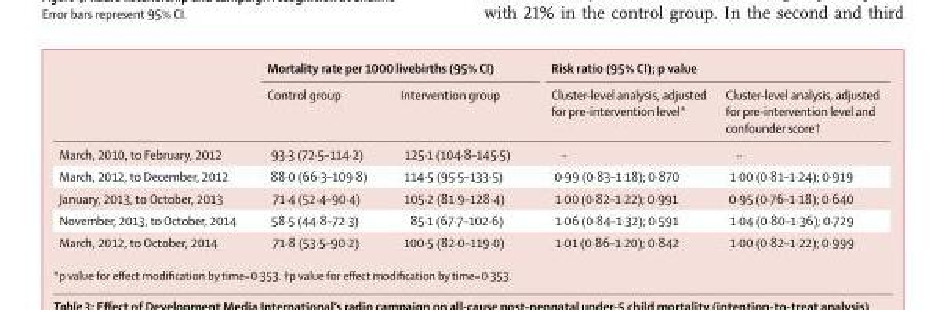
<table><thead><tr><td rowspan="2"></td><td colspan="2">Mortality rate per 1000 livebirths (95% CI)</td><td colspan="2">Risk ratio (95% CI); p value</td></tr><tr><td>Control group</td><td>Intervention group</td><td>Cluster-level analysis, adjusted for pre-intervention level*</td><td>Cluster-level analysis, adjusted for pre-intervention level and confounder score†</td></tr></thead><tbody><tr><td>March, 2010, to February, 2012</td><td>93·3 (72·5–114·2)</td><td>125·1 (104·8–145·5)</td><td>··</td><td>··</td></tr><tr><td>March, 2012, to December, 2012</td><td>88·0 (66·3–109·8)</td><td>114·5 (95·5–133·5)</td><td>0·99 (0·83–1·18); 0·870</td><td>1·00 (0·81–1·24); 0·919</td></tr><tr><td>January, 2013, to October, 2013</td><td>71·4 (52·4–90·4)</td><td>105·2 (81·9–128·4)</td><td>1·00 (0·82–1·22); 0·991</td><td>0·95 (0·76–1·18); 0·640</td></tr><tr><td>November, 2013, to October, 2014</td><td>58·5 (44·8–72·3)</td><td>85·1 (67·7–102·6)</td><td>1·06 (0·84–1·32); 0·591</td><td>1·04 (0·80–1·36); 0·729</td></tr><tr><td>March, 2012, to October, 2014</td><td>71·8 (53·5–90·2)</td><td>100·5 (82·0–119·0)</td><td>1·01 (0·86–1·20); 0·842</td><td>1·00 (0·82–1·22); 0·999</td></tr></tbody></table>